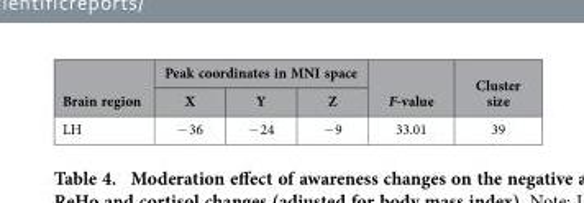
<table><thead><tr><td rowspan="2">Brain region</td><td colspan="3">Peak coordinates in MNI space</td><td rowspan="2">F-value</td><td rowspan="2">Cluster size</td></tr><tr><td>X</td><td>Y</td><td>Z</td></tr></thead><tbody><tr><td>LH</td><td>− 36</td><td>− 24</td><td>− 9</td><td>33.01</td><td>39</td></tr></tbody></table>